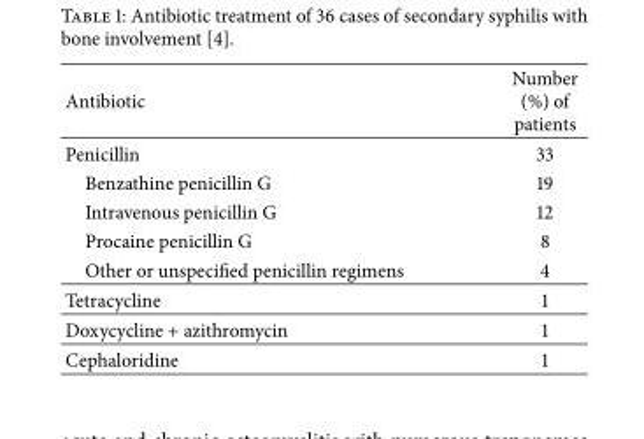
<table><thead><tr><td>Antibiotic</td><td>Number (%) of patients</td></tr></thead><tbody><tr><td>Penicillin</td><td>33</td></tr><tr><td>Benzathine penicillin G</td><td>19</td></tr><tr><td>Intravenous penicillin G</td><td>12</td></tr><tr><td>Procaine penicillin G</td><td>8</td></tr><tr><td>Other or unspecified penicillin regimens</td><td>4</td></tr><tr><td>Tetracycline</td><td>1</td></tr><tr><td>Doxycycline + azithromycin</td><td>1</td></tr><tr><td>Cephaloridine</td><td>1</td></tr></tbody></table>